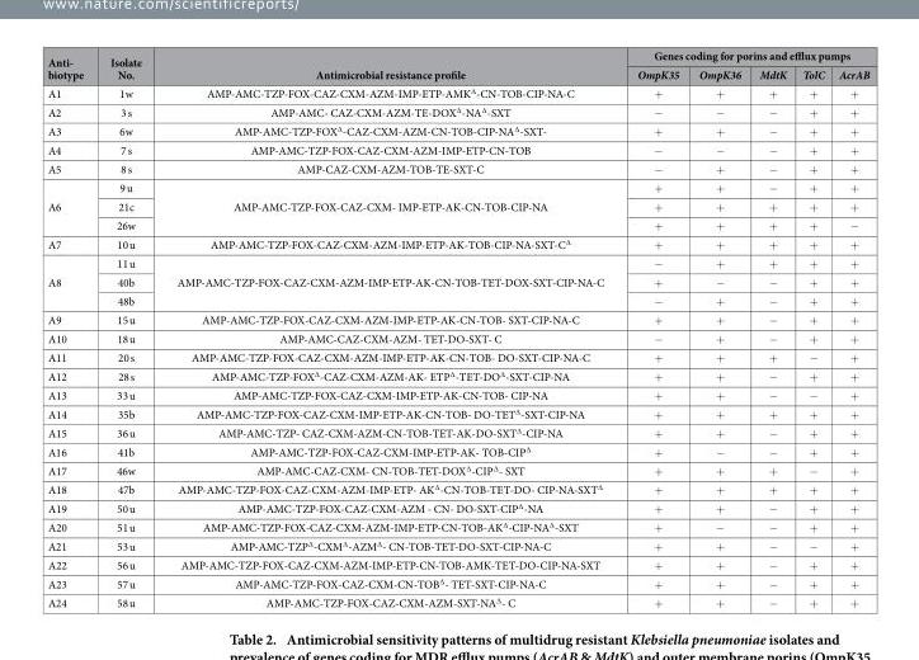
<table><thead><tr><td rowspan="2">Anti- biotype</td><td rowspan="2">Isolate No.</td><td rowspan="2">Antimicrobial resistance profile</td><td colspan="5">Genes coding for porins and efflux pumps</td></tr><tr><td>OmpK35</td><td>OmpK36</td><td>MdtK</td><td>TolC</td><td>AcrAB</td></tr></thead><tbody><tr><td>A1</td><td>1w</td><td>AMP-AMC-TZP-FOX-CAZ-CXM-AZM-IMP-ETP-AMK<sup>∆</sup>-CN-TOB-CIP-NA-C</td><td>+</td><td>+</td><td>+</td><td>+</td><td>+</td></tr><tr><td>A2</td><td>3 s</td><td>AMP-AMC- CAZ-CXM-AZM-TE-DOX<sup>∆</sup>-NA<sup>∆</sup>-SXT</td><td>−</td><td>−</td><td>−</td><td>+</td><td>+</td></tr><tr><td>A3</td><td>6w</td><td>AMP-AMC-TZP-FOX<sup>∆</sup>-CAZ-CXM-AZM-CN-TOB-CIP-NA<sup>∆</sup>-SXT-</td><td>+</td><td>+</td><td>−</td><td>+</td><td>+</td></tr><tr><td>A4</td><td>7 s</td><td>AMP-AMC-TZP-FOX-CAZ-CXM-AZM-IMP-ETP-CN-TOB</td><td>−</td><td>−</td><td>−</td><td>+</td><td>+</td></tr><tr><td>A5</td><td>8 s</td><td>AMP-CAZ-CXM-AZM-TOB-TE-SXT-C</td><td>−</td><td>+</td><td>−</td><td>+</td><td>+</td></tr><tr><td rowspan="3">A6</td><td>9 u</td><td rowspan="3">AMP-AMC-TZP-FOX-CAZ-CXM- IMP-ETP-AK-CN-TOB-CIP-NA</td><td>+</td><td>+</td><td>−</td><td>+</td><td>+</td></tr><tr><td>21c</td><td>+</td><td>+</td><td>+</td><td>+</td><td>+</td></tr><tr><td>26w</td><td>+</td><td>+</td><td>+</td><td>+</td><td>−</td></tr><tr><td>A7</td><td>10 u</td><td>AMP-AMC-TZP-FOX-CAZ-CXM-AZM-IMP-ETP-AK-TOB-CIP-NA-SXT-C<sup>∆</sup></td><td>+</td><td>+</td><td>+</td><td>+</td><td>+</td></tr><tr><td rowspan="3">A8</td><td>11 u</td><td rowspan="3">AMP-AMC-TZP-FOX-CAZ-CXM-AZM-IMP-ETP-AK-CN-TOB-TET-DOX-SXT-CIP-NA-C</td><td>−</td><td>+</td><td>+</td><td>+</td><td>+</td></tr><tr><td>40b</td><td>+</td><td>−</td><td>−</td><td>+</td><td>+</td></tr><tr><td>48b</td><td>−</td><td>+</td><td>−</td><td>+</td><td>+</td></tr><tr><td>A9</td><td>15 u</td><td>AMP-AMC-TZP-FOX-CAZ-CXM-AZM-IMP-ETP-AK-CN-TOB- SXT-CIP-NA-C</td><td>+</td><td>+</td><td>−</td><td>+</td><td>+</td></tr><tr><td>A10</td><td>18 u</td><td>AMP-AMC-CAZ-CXM-AZM- TET-DO-SXT- C</td><td>−</td><td>+</td><td>−</td><td>+</td><td>+</td></tr><tr><td>A11</td><td>20 s</td><td>AMP-AMC-TZP-FOX-CAZ-CXM-AZM-IMP-ETP-AK-CN-TOB- DO-SXT-CIP-NA-C</td><td>+</td><td>+</td><td>+</td><td>−</td><td>+</td></tr><tr><td>A12</td><td>28 s</td><td>AMP-AMC-TZP-FOX<sup>∆</sup>-CAZ-CXM-AZM-AK- ETP<sup>∆</sup>-TET-DO<sup>∆</sup>-SXT-CIP-NA</td><td>+</td><td>+</td><td>−</td><td>+</td><td>+</td></tr><tr><td>A13</td><td>33 u</td><td>AMP-AMC-TZP-FOX-CAZ-CXM-IMP-ETP-AK-CN-TOB- CIP-NA</td><td>+</td><td>+</td><td>−</td><td>−</td><td>+</td></tr><tr><td>A14</td><td>35b</td><td>AMP-AMC-TZP-FOX-CAZ-CXM-IMP-ETP-AK-CN-TOB- DO-TET<sup>∆</sup>-SXT-CIP-NA</td><td>+</td><td>+</td><td>+</td><td>+</td><td>+</td></tr><tr><td>A15</td><td>36 u</td><td>AMP-AMC-TZP- CAZ-CXM-AZM-CN-TOB-TET-AK-DO-SXT<sup>∆</sup>-CIP-NA</td><td>+</td><td>+</td><td>−</td><td>+</td><td>+</td></tr><tr><td>A16</td><td>41b</td><td>AMP-AMC-TZP-FOX-CAZ-CXM-IMP-ETP-AK- TOB-CIP<sup>∆</sup></td><td>+</td><td>−</td><td>−</td><td>+</td><td>+</td></tr><tr><td>A17</td><td>46w</td><td>AMP-AMC-CAZ-CXM- CN-TOB-TET-DOX<sup>∆</sup>-CIP<sup>∆</sup>- SXT</td><td>+</td><td>+</td><td>+</td><td>−</td><td>+</td></tr><tr><td>A18</td><td>47b</td><td>AMP-AMC-TZP-FOX-CAZ-CXM-AZM-IMP-ETP- AK<sup>∆</sup>-CN-TOB-TET-DO- CIP-NA-SXT<sup>∆</sup></td><td>+</td><td>+</td><td>+</td><td>+</td><td>+</td></tr><tr><td>A19</td><td>50 u</td><td>AMP-AMC-TZP-FOX-CAZ-CXM-AZM - CN- DO-SXT-CIP<sup>∆</sup>-NA</td><td>+</td><td>+</td><td>−</td><td>+</td><td>+</td></tr><tr><td>A20</td><td>51 u</td><td>AMP-AMC-TZP-FOX-CAZ-CXM-AZM-IMP-ETP-CN-TOB-AK<sup>∆</sup>-CIP-NA<sup>∆</sup>-SXT</td><td>+</td><td>−</td><td>−</td><td>+</td><td>+</td></tr><tr><td>A21</td><td>53 u</td><td>AMP-AMC-TZP<sup>∆</sup>-CXM<sup>∆</sup>-AZM<sup>∆</sup>- CN-TOB-TET-DO-SXT-CIP-NA-C</td><td>+</td><td>+</td><td>−</td><td>−</td><td>+</td></tr><tr><td>A22</td><td>56 u</td><td>AMP-AMC-TZP-FOX-CAZ-CXM-AZM-IMP-ETP-CN-TOB-AMK-TET-DO-CIP-NA-SXT</td><td>+</td><td>+</td><td>−</td><td>+</td><td>+</td></tr><tr><td>A23</td><td>57 u</td><td>AMP-AMC-TZP-FOX-CAZ-CXM-CN-TOB<sup>∆</sup>- TET-SXT-CIP-NA-C</td><td>+</td><td>+</td><td>−</td><td>+</td><td>+</td></tr><tr><td>A24</td><td>58 u</td><td>AMP-AMC-TZP-FOX-CAZ-CXM-AZM-SXT-NA<sup>∆</sup>- C</td><td>+</td><td>+</td><td>−</td><td>+</td><td>+</td></tr></tbody></table>